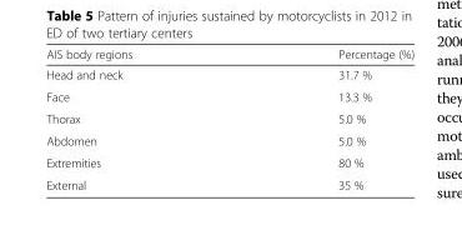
<table><thead><tr><td>AIS body regions</td><td>Percentage (%)</td></tr></thead><tbody><tr><td>Head and neck</td><td>31.7 %</td></tr><tr><td>Face</td><td>13.3 %</td></tr><tr><td>Thorax</td><td>5.0 %</td></tr><tr><td>Abdomen</td><td>5.0 %</td></tr><tr><td>Extremities</td><td>80 %</td></tr><tr><td>External</td><td>35 %</td></tr></tbody></table>